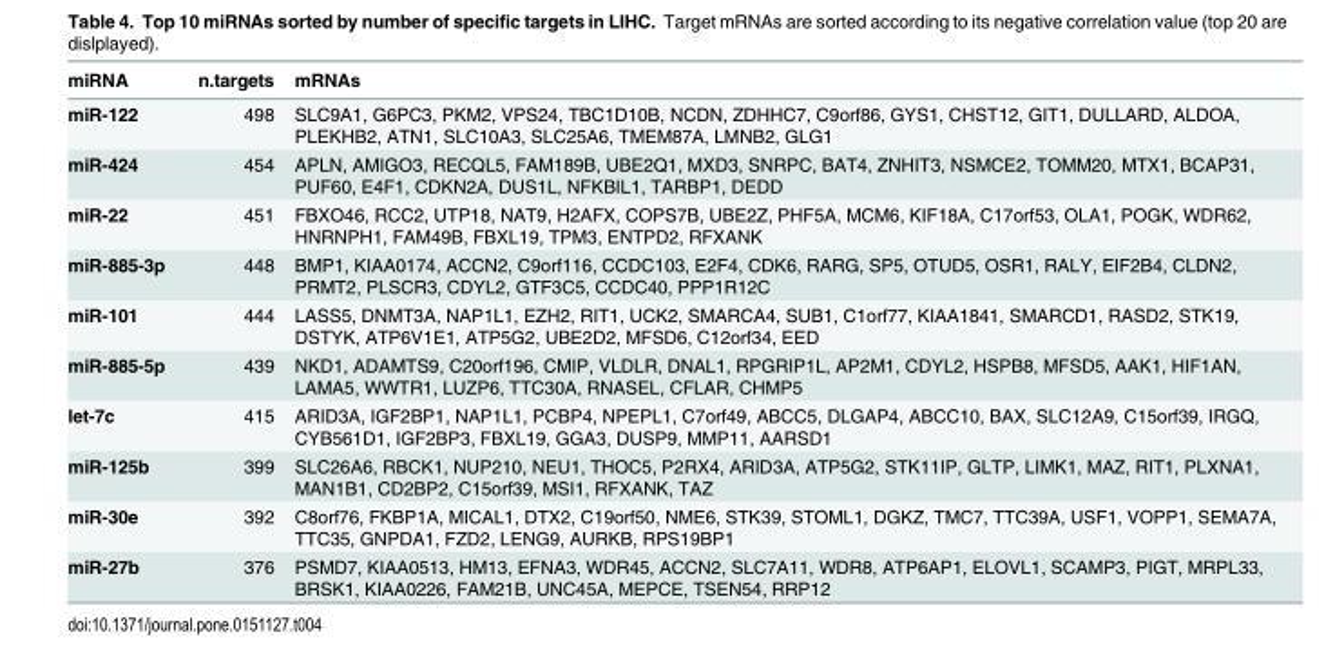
<table><thead><tr><td>miRNA</td><td>n.targets</td><td>mRNAs</td></tr></thead><tbody><tr><td>miR-122</td><td>498</td><td>SLC9A1, G6PC3, PKM2, VPS24, TBC1D10B, NCDN, ZDHHC7, C9orf86, GYS1, CHST12, GIT1, DULLARD, ALDOA, PLEKHB2, ATN1, SLC10A3, SLC25A6, TMEM87A, LMNB2, GLG1</td></tr><tr><td>miR-424</td><td>454</td><td>APLN, AMIGO3, RECQL5, FAM189B, UBE2Q1, MXD3, SNRPC, BAT4, ZNHIT3, NSMCE2, TOMM20, MTX1, BCAP31, PUF60, E4F1, CDKN2A, DUS1L, NFKBIL1, TARBP1, DEDD</td></tr><tr><td>miR-22</td><td>451</td><td>FBXO46, RCC2, UTP18, NAT9, H2AFX, COPS7B, UBE2Z, PHF5A, MCM6, KIF18A, C17orf53, OLA1, POGK, WDR62, HNRNPH1, FAM49B, FBXL19, TPM3, ENTPD2, RFXANK</td></tr><tr><td>miR-885-3p</td><td>448</td><td>BMP1, KIAA0174, ACCN2, C9orf116, CCDC103, E2F4, CDK6, RARG, SP5, OTUD5, OSR1, RALY, EIF2B4, CLDN2, PRMT2, PLSCR3, CDYL2, GTF3C5, CCDC40, PPP1R12C</td></tr><tr><td>miR-101</td><td>444</td><td>LASS5, DNMT3A, NAP1L1, EZH2, RIT1, UCK2, SMARCA4, SUB1, C1orf77, KIAA1841, SMARCD1, RASD2, STK19, DSTYK, ATP6V1E1, ATP5G2, UBE2D2, MFSD6, C12orf34, EED</td></tr><tr><td>miR-885-5p</td><td>439</td><td>NKD1, ADAMTS9, C20orf196, CMIP, VLDLR, DNAL1, RPGRIP1L, AP2M1, CDYL2, HSPB8, MFSD5, AAK1, HIF1AN, LAMA5, WWTR1, LUZP6, TTC30A, RNASEL, CFLAR, CHMP5</td></tr><tr><td>let-7c</td><td>415</td><td>ARID3A, IGF2BP1, NAP1L1, PCBP4, NPEPL1, C7orf49, ABCC5, DLGAP4, ABCC10, BAX, SLC12A9, C15orf39, IRGQ, CYB561D1, IGF2BP3, FBXL19, GGA3, DUSP9, MMP11, AARSD1</td></tr><tr><td>miR-125b</td><td>399</td><td>SLC26A6, RBCK1, NUP210, NEU1, THOC5, P2RX4, ARID3A, ATP5G2, STK11IP, GLTP, LIMK1, MAZ, RIT1, PLXNA1, MAN1B1, CD2BP2, C15orf39, MSI1, RFXANK, TAZ</td></tr><tr><td>miR-30e</td><td>392</td><td>C8orf76, FKBP1A, MICAL1, DTX2, C19orf50, NME6, STK39, STOML1, DGKZ, TMC7, TTC39A, USF1, VOPP1, SEMA7A, TTC35, GNPDA1, FZD2, LENG9, AURKB, RPS19BP1</td></tr><tr><td>miR-27b</td><td>376</td><td>PSMD7, KIAA0513, HM13, EFNA3, WDR45, ACCN2, SLC7A11, WDR8, ATP6AP1, ELOVL1, SCAMP3, PIGT, MRPL33, BRSK1, KIAA0226, FAM21B, UNC45A, MEPCE, TSEN54, RRP12</td></tr></tbody></table>